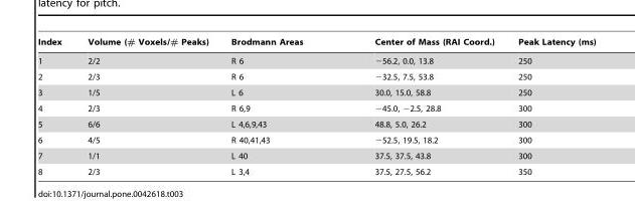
<table><thead><tr><td>Index</td><td>Volume (# Voxels/# Peaks)</td><td>Brodmann Areas</td><td>Center of Mass (RAI Coord.)</td><td>Peak Latency (ms)</td></tr></thead><tbody><tr><td>1</td><td>2/2</td><td>R 6</td><td>−56.2, 0.0, 13.8</td><td>250</td></tr><tr><td>2</td><td>2/3</td><td>R 6</td><td>−32.5, 7.5, 53.8</td><td>250</td></tr><tr><td>3</td><td>1/5</td><td>L 6</td><td>30.0, 15.0, 58.8</td><td>250</td></tr><tr><td>4</td><td>2/3</td><td>R 6,9</td><td>−45.0, −2.5, 28.8</td><td>300</td></tr><tr><td>5</td><td>6/6</td><td>L 4,6,9,43</td><td>48.8, 5.0, 26.2</td><td>300</td></tr><tr><td>6</td><td>4/5</td><td>R 40,41,43</td><td>−52.5, 19.5, 18.2</td><td>300</td></tr><tr><td>7</td><td>1/1</td><td>L 40</td><td>37.5, 37.5, 43.8</td><td>300</td></tr><tr><td>8</td><td>2/3</td><td>L 3,4</td><td>37.5, 27.5, 56.2</td><td>350</td></tr></tbody></table>